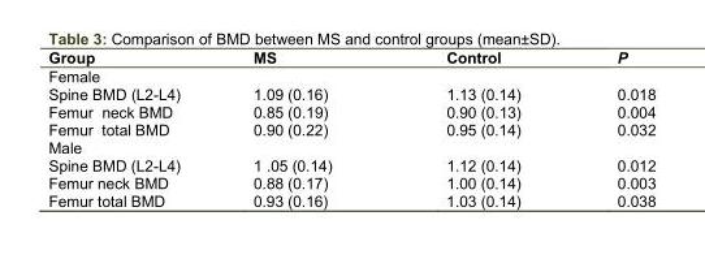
<table><thead><tr><td>Group</td><td>MS</td><td>Control</td><td>P</td></tr></thead><tbody><tr><td colspan="4">Female</td></tr><tr><td>Spine BMD (L2-L4)</td><td>1.09 (0.16)</td><td>1.13 (0.14)</td><td>0.018</td></tr><tr><td>Femur neck BMD</td><td>0.85 (0.19)</td><td>0.90 (0.13)</td><td>0.004</td></tr><tr><td>Femur total BMD</td><td>0.90 (0.22)</td><td>0.95 (0.14)</td><td>0.032</td></tr><tr><td colspan="4">Male</td></tr><tr><td>Spine BMD (L2-L4)</td><td>1 .05 (0.14)</td><td>1.12 (0.14)</td><td>0.012</td></tr><tr><td>Femur neck BMD</td><td>0.88 (0.17)</td><td>1.00 (0.14)</td><td>0.003</td></tr><tr><td>Femur total BMD</td><td>0.93 (0.16)</td><td>1.03 (0.14)</td><td>0.038</td></tr></tbody></table>